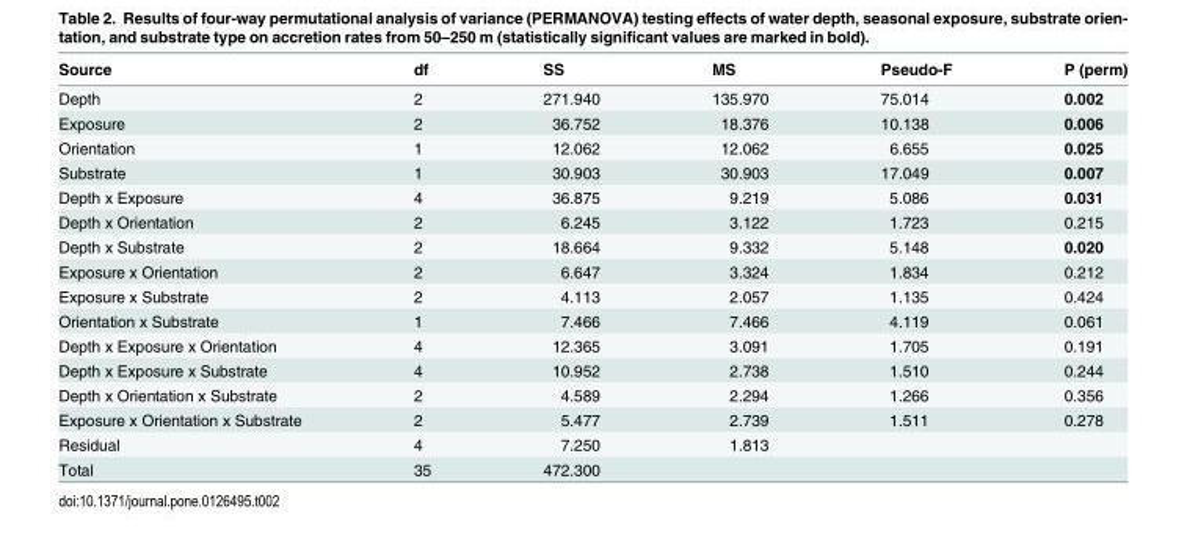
<table><thead><tr><td>Source</td><td>df</td><td>SS</td><td>MS</td><td>Pseudo-F</td><td>P (perm)</td></tr></thead><tbody><tr><td>Depth</td><td>2</td><td>271.940</td><td>135.970</td><td>75.014</td><td>0.002</td></tr><tr><td>Exposure</td><td>2</td><td>36.752</td><td>18.376</td><td>10.138</td><td>0.006</td></tr><tr><td>Orientation</td><td>1</td><td>12.062</td><td>12.062</td><td>6.655</td><td>0.025</td></tr><tr><td>Substrate</td><td>1</td><td>30.903</td><td>30.903</td><td>17.049</td><td>0.007</td></tr><tr><td>Depth x Exposure</td><td>4</td><td>36.875</td><td>9.219</td><td>5.086</td><td>0.031</td></tr><tr><td>Depth x Orientation</td><td>2</td><td>6.245</td><td>3.122</td><td>1.723</td><td>0.215</td></tr><tr><td>Depth x Substrate</td><td>2</td><td>18.664</td><td>9.332</td><td>5.148</td><td>0.020</td></tr><tr><td>Exposure x Orientation</td><td>2</td><td>6.647</td><td>3.324</td><td>1.834</td><td>0.212</td></tr><tr><td>Exposure x Substrate</td><td>2</td><td>4.113</td><td>2.057</td><td>1.135</td><td>0.424</td></tr><tr><td>Orientation x Substrate</td><td>1</td><td>7.466</td><td>7.466</td><td>4.119</td><td>0.061</td></tr><tr><td>Depth x Exposure x Orientation</td><td>4</td><td>12.365</td><td>3.091</td><td>1.705</td><td>0.191</td></tr><tr><td>Depth x Exposure x Substrate</td><td>4</td><td>10.952</td><td>2.738</td><td>1.510</td><td>0.244</td></tr><tr><td>Depth x Orientation x Substrate</td><td>2</td><td>4.589</td><td>2.294</td><td>1.266</td><td>0.356</td></tr><tr><td>Exposure x Orientation x Substrate</td><td>2</td><td>5.477</td><td>2.739</td><td>1.511</td><td>0.278</td></tr><tr><td>Residual</td><td>4</td><td>7.250</td><td>1.813</td><td></td><td></td></tr><tr><td>Total</td><td>35</td><td>472.300</td><td></td><td></td><td></td></tr></tbody></table>